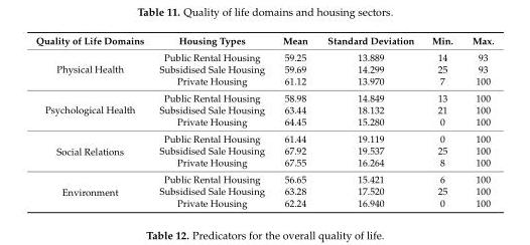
<table><thead><tr><td>Quality of Life Domains</td><td>Housing Types</td><td>Mean</td><td>Standard Deviation</td><td>Min.</td><td>Max.</td></tr></thead><tbody><tr><td rowspan="3">Physical Health</td><td>Public Rental Housing</td><td>59.25</td><td>13.889</td><td>14</td><td>93</td></tr><tr><td>Subsidised Sale Housing</td><td>59.69</td><td>14.299</td><td>25</td><td>93</td></tr><tr><td>Private Housing</td><td>61.12</td><td>13.970</td><td>7</td><td>100</td></tr><tr><td rowspan="3">Psychological Health</td><td>Public Rental Housing</td><td>58.98</td><td>14.849</td><td>13</td><td>100</td></tr><tr><td>Subsidised Sale Housing</td><td>63.44</td><td>18.132</td><td>21</td><td>100</td></tr><tr><td>Private Housing</td><td>64.45</td><td>15.280</td><td>0</td><td>100</td></tr><tr><td rowspan="3">Social Relations</td><td>Public Rental Housing</td><td>61.44</td><td>19.119</td><td>0</td><td>100</td></tr><tr><td>Subsidised Sale Housing</td><td>67.92</td><td>19.537</td><td>25</td><td>100</td></tr><tr><td>Private Housing</td><td>67.55</td><td>16.264</td><td>8</td><td>100</td></tr><tr><td rowspan="3">Environment</td><td>Public Rental Housing</td><td>56.65</td><td>15.421</td><td>6</td><td>100</td></tr><tr><td>Subsidised Sale Housing</td><td>63.28</td><td>17.520</td><td>25</td><td>100</td></tr><tr><td>Private Housing</td><td>62.24</td><td>16.940</td><td>0</td><td>100</td></tr></tbody></table>